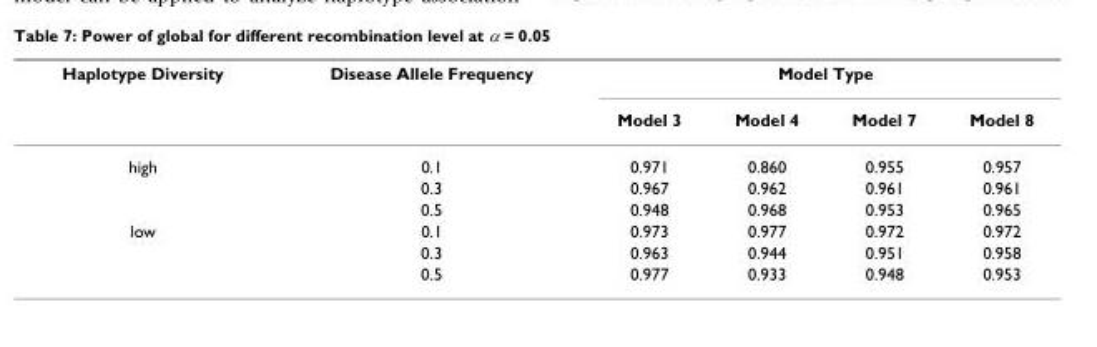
<table><thead><tr><td rowspan="2">Haplotype Diversity</td><td rowspan="2">Disease Allele Frequency</td><td colspan="4">Model Type</td></tr><tr><td>Model 3</td><td>Model 4</td><td>Model 7</td><td>Model 8</td></tr></thead><tbody><tr><td rowspan="3">high</td><td>0.1</td><td>0.971</td><td>0.860</td><td>0.955</td><td>0.957</td></tr><tr><td>0.3</td><td>0.967</td><td>0.962</td><td>0.961</td><td>0.961</td></tr><tr><td>0.5</td><td>0.948</td><td>0.968</td><td>0.953</td><td>0.965</td></tr><tr><td rowspan="3">low</td><td>0.1</td><td>0.973</td><td>0.977</td><td>0.972</td><td>0.972</td></tr><tr><td>0.3</td><td>0.963</td><td>0.944</td><td>0.951</td><td>0.958</td></tr><tr><td>0.5</td><td>0.977</td><td>0.933</td><td>0.948</td><td>0.953</td></tr></tbody></table>